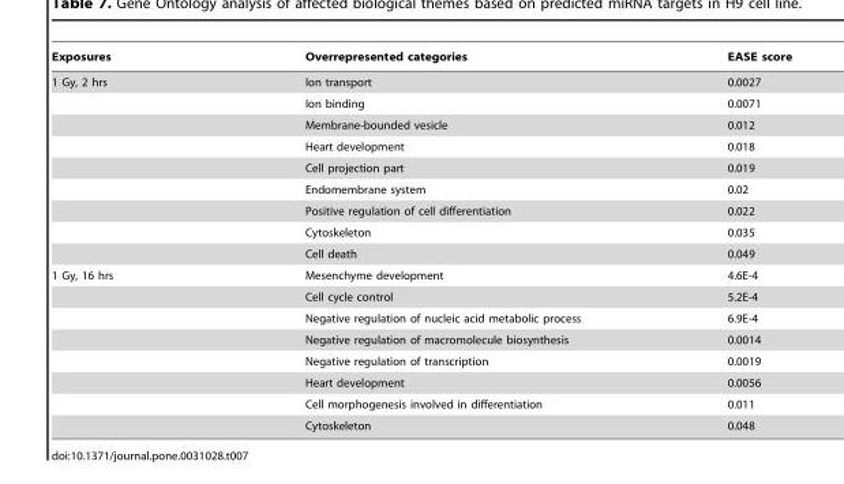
<table><thead><tr><td>Exposures</td><td>Overrepresented categories</td><td>EASE score</td></tr></thead><tbody><tr><td rowspan="9">1 Gy, 2 hrs</td><td>Ion transport</td><td>0.0027</td></tr><tr><td>Ion binding</td><td>0.0071</td></tr><tr><td>Membrane-bounded vesicle</td><td>0.012</td></tr><tr><td>Heart development</td><td>0.018</td></tr><tr><td>Cell projection part</td><td>0.019</td></tr><tr><td>Endomembrane system</td><td>0.02</td></tr><tr><td>Positive regulation of cell differentiation</td><td>0.022</td></tr><tr><td>Cytoskeleton</td><td>0.035</td></tr><tr><td>Cell death</td><td>0.049</td></tr><tr><td rowspan="8">1 Gy, 16 hrs</td><td>Mesenchyme development</td><td>4.6E-4</td></tr><tr><td>Cell cycle control</td><td>5.2E-4</td></tr><tr><td>Negative regulation of nucleic acid metabolic process</td><td>6.9E-4</td></tr><tr><td>Negative regulation of macromolecule biosynthesis</td><td>0.0014</td></tr><tr><td>Negative regulation of transcription</td><td>0.0019</td></tr><tr><td>Heart development</td><td>0.0056</td></tr><tr><td>Cell morphogenesis involved in differentiation</td><td>0.011</td></tr><tr><td>Cytoskeleton</td><td>0.048</td></tr></tbody></table>